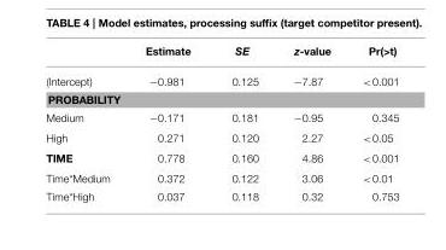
<table><thead><tr><td></td><td>Estimate</td><td>SE</td><td>z-value</td><td>Pr(&gt;t)</td></tr></thead><tbody><tr><td>(Intercept)</td><td>−0.981</td><td>0.125</td><td>−7.87</td><td>&lt;0.001</td></tr><tr><td colspan="5">PROBABILITY</td></tr><tr><td>Medium</td><td>−0.171</td><td>0.181</td><td>−0.95</td><td>0.345</td></tr><tr><td>High</td><td>0.271</td><td>0.120</td><td>2.27</td><td>&lt;0.05</td></tr><tr><td>TIME</td><td>0.778</td><td>0.160</td><td>4.86</td><td>&lt;0.001</td></tr><tr><td>Time*Medium</td><td>0.372</td><td>0.122</td><td>3.06</td><td>&lt;0.01</td></tr><tr><td>Time*High</td><td>0.037</td><td>0.118</td><td>0.32</td><td>0.753</td></tr></tbody></table>